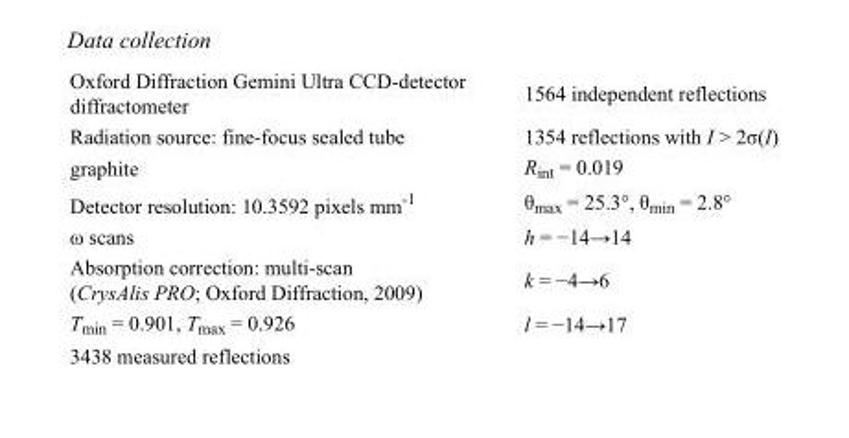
<table><tbody><tr><td>Oxford Diffraction Gemini Ultra CCD-detector diffractometer</td><td>1564 independent reflections</td></tr><tr><td>Radiation source: fine-focus sealed tube</td><td>1354 reflections with I &gt; 2σ(I)</td></tr><tr><td>graphite</td><td>R<sub>int</sub> = 0.019</td></tr><tr><td>Detector resolution: 10.3592 pixels mm<sup>-1</sup></td><td>θ<sub>max</sub> = 25.3°, θ<sub>min</sub> = 2.8°</td></tr><tr><td>ω scans</td><td>h = −14→14</td></tr><tr><td>Absorption correction: multi-scan (CrysAlis PRO; Oxford Diffraction, 2009)</td><td>k = −4→6</td></tr><tr><td>T<sub>min</sub> = 0.901, T<sub>max</sub> = 0.926</td><td>l = −14→17</td></tr><tr><td>3438 measured reflections</td><td></td></tr></tbody></table>